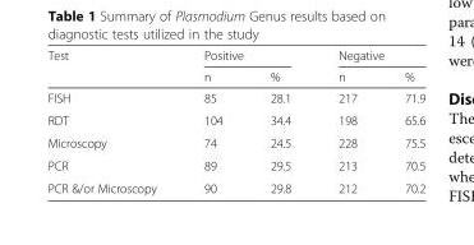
<table><thead><tr><td rowspan="2">Test</td><td colspan="2">Positive</td><td colspan="2">Negative</td></tr><tr><td>n</td><td>%</td><td>n</td><td>%</td></tr></thead><tbody><tr><td>FISH</td><td>85</td><td>28.1</td><td>217</td><td>71.9</td></tr><tr><td>RDT</td><td>104</td><td>34.4</td><td>198</td><td>65.6</td></tr><tr><td>Microscopy</td><td>74</td><td>24.5</td><td>228</td><td>75.5</td></tr><tr><td>PCR</td><td>89</td><td>29.5</td><td>213</td><td>70.5</td></tr><tr><td>PCR &amp;/or Microscopy</td><td>90</td><td>29.8</td><td>212</td><td>70.2</td></tr></tbody></table>